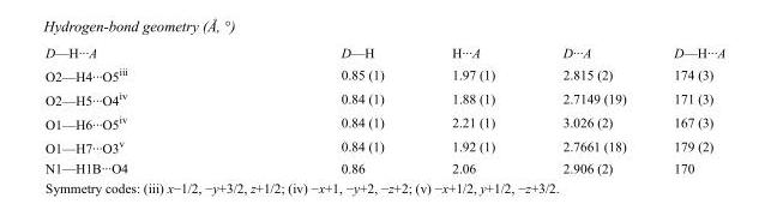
<table><tbody><tr><td>D—H···A</td><td>D—H</td><td>H···A</td><td>D···A</td><td>D—H···A</td></tr><tr><td>O2—H4···O5<sup>iii</sup></td><td>0.85 (1)</td><td>1.97 (1)</td><td>2.815 (2)</td><td>174 (3)</td></tr><tr><td>O2—H5···O4<sup>iv</sup></td><td>0.84 (1)</td><td>1.88 (1)</td><td>2.7149 (19)</td><td>171 (3)</td></tr><tr><td>O1—H6···O5<sup>iv</sup></td><td>0.84 (1)</td><td>2.21 (1)</td><td>3.026 (2)</td><td>167 (3)</td></tr><tr><td>O1—H7···O3<sup>v</sup></td><td>0.84 (1)</td><td>1.92 (1)</td><td>2.7661 (18)</td><td>179 (2)</td></tr><tr><td>N1—H1B···O4</td><td>0.86</td><td>2.06</td><td>2.906 (2)</td><td>170</td></tr></tbody></table>